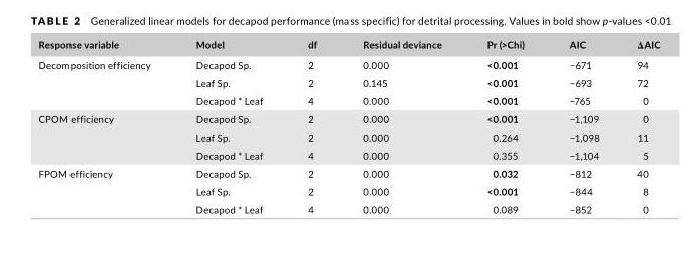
<table><thead><tr><td>Response variable</td><td>Model</td><td>df</td><td>Residual deviance</td><td>Pr (&gt;Chi)</td><td>AIC</td><td>ΔAIC</td></tr></thead><tbody><tr><td rowspan="3">Decomposition efficiency</td><td>Decapod Sp.</td><td>2</td><td>0.000</td><td>&lt;0.001</td><td>−671</td><td>94</td></tr><tr><td>Leaf Sp.</td><td>2</td><td>0.145</td><td>&lt;0.001</td><td>−693</td><td>72</td></tr><tr><td>Decapod * Leaf</td><td>4</td><td>0.000</td><td>&lt;0.001</td><td>−765</td><td>0</td></tr><tr><td rowspan="3">CPOM efficiency</td><td>Decapod Sp.</td><td>2</td><td>0.000</td><td>&lt;0.001</td><td>−1,109</td><td>0</td></tr><tr><td>Leaf Sp.</td><td>2</td><td>0.000</td><td>0.264</td><td>−1,098</td><td>11</td></tr><tr><td>Decapod * Leaf</td><td>4</td><td>0.000</td><td>0.355</td><td>−1,104</td><td>5</td></tr><tr><td rowspan="3">FPOM efficiency</td><td>Decapod Sp.</td><td>2</td><td>0.000</td><td>0.032</td><td>−812</td><td>40</td></tr><tr><td>Leaf Sp.</td><td>2</td><td>0.000</td><td>&lt;0.001</td><td>−844</td><td>8</td></tr><tr><td>Decapod * Leaf</td><td>4</td><td>0.000</td><td>0.089</td><td>−852</td><td>0</td></tr></tbody></table>